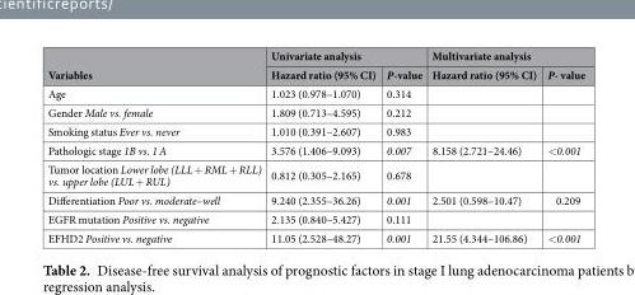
<table><thead><tr><td rowspan="2">Variables</td><td colspan="2">Univariate analysis</td><td colspan="2">Multivariate analysis</td></tr><tr><td>Hazard ratio (95% CI)</td><td>P-value</td><td>Hazard ratio (95% CI)</td><td>P- value</td></tr></thead><tbody><tr><td>Age</td><td>1.023 (0.978–1.070)</td><td>0.314</td><td></td><td></td></tr><tr><td>Gender Male vs. female</td><td>1.809 (0.713–4.595)</td><td>0.212</td><td></td><td></td></tr><tr><td>Smoking status Ever vs. never</td><td>1.010 (0.391–2.607)</td><td>0.983</td><td></td><td></td></tr><tr><td>Pathologic stage 1B vs. 1 A</td><td>3.576 (1.406–9.093)</td><td>0.007</td><td>8.158 (2.721–24.46)</td><td>&lt;0.001</td></tr><tr><td>Tumor location Lower lobe (LLL + RML + RLL) vs. upper lobe (LUL + RUL)</td><td>0.812 (0.305–2.165)</td><td>0.678</td><td></td><td></td></tr><tr><td>Differentiation Poor vs. moderate–well</td><td>9.240 (2.355–36.26)</td><td>0.001</td><td>2.501 (0.598–10.47)</td><td>0.209</td></tr><tr><td>EGFR mutation Positive vs. negative</td><td>2.135 (0.840–5.427)</td><td>0.111</td><td></td><td></td></tr><tr><td>EFHD2 Positive vs. negative</td><td>11.05 (2.528–48.27)</td><td>0.001</td><td>21.55 (4.344–106.86)</td><td>&lt;0.001</td></tr></tbody></table>